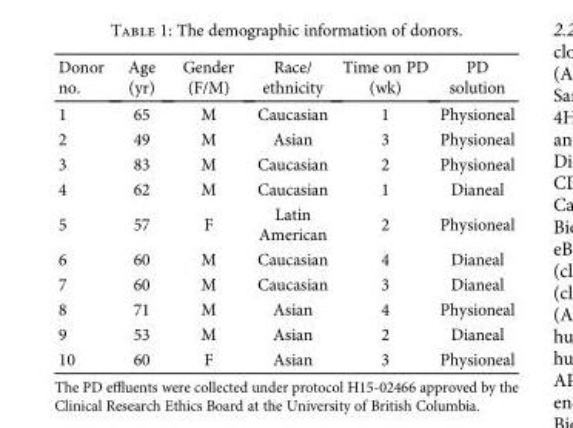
<table><thead><tr><td>Donor no.</td><td>Age (yr)</td><td>Gender (F/M)</td><td>Race/ ethnicity</td><td>Time on PD (wk)</td><td>PD solution</td></tr></thead><tbody><tr><td>1</td><td>65</td><td>M</td><td>Caucasian</td><td>1</td><td>Physioneal</td></tr><tr><td>2</td><td>49</td><td>M</td><td>Asian</td><td>3</td><td>Physioneal</td></tr><tr><td>3</td><td>83</td><td>M</td><td>Caucasian</td><td>2</td><td>Physioneal</td></tr><tr><td>4</td><td>62</td><td>M</td><td>Caucasian</td><td>1</td><td>Dianeal</td></tr><tr><td>5</td><td>57</td><td>F</td><td>Latin American</td><td>2</td><td>Physioneal</td></tr><tr><td>6</td><td>60</td><td>M</td><td>Caucasian</td><td>4</td><td>Dianeal</td></tr><tr><td>7</td><td>60</td><td>M</td><td>Caucasian</td><td>3</td><td>Dianeal</td></tr><tr><td>8</td><td>71</td><td>M</td><td>Asian</td><td>4</td><td>Physioneal</td></tr><tr><td>9</td><td>53</td><td>M</td><td>Asian</td><td>2</td><td>Dianeal</td></tr><tr><td>10</td><td>60</td><td>F</td><td>Asian</td><td>3</td><td>Physioneal</td></tr></tbody></table>